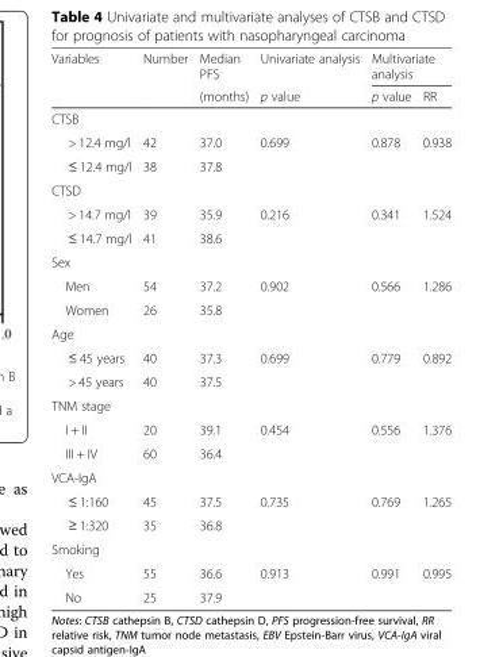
<table><thead><tr><td rowspan="2">Variables</td><td rowspan="2">Number</td><td rowspan="2">Median PFS (months)</td><td rowspan="2">Univariate analysis p value</td><td colspan="2">Multivariate analysis</td></tr><tr><td>p value</td><td>RR</td></tr></thead><tbody><tr><td colspan="6">CTSB</td></tr><tr><td>&gt; 12.4 mg/l</td><td>42</td><td>37.0</td><td>0.699</td><td>0.878</td><td>0.938</td></tr><tr><td>≤ 12.4 mg/l</td><td>38</td><td>37.8</td><td></td><td></td><td></td></tr><tr><td colspan="6">CTSD</td></tr><tr><td>&gt; 14.7 mg/l</td><td>39</td><td>35.9</td><td>0.216</td><td>0.341</td><td>1.524</td></tr><tr><td>≤ 14.7 mg/l</td><td>41</td><td>38.6</td><td></td><td></td><td></td></tr><tr><td colspan="6">Sex</td></tr><tr><td>Men</td><td>54</td><td>37.2</td><td>0.902</td><td>0.566</td><td>1.286</td></tr><tr><td>Women</td><td>26</td><td>35.8</td><td></td><td></td><td></td></tr><tr><td colspan="6">Age</td></tr><tr><td>≤ 45 years</td><td>40</td><td>37.3</td><td>0.699</td><td>0.779</td><td>0.892</td></tr><tr><td>&gt; 45 years</td><td>40</td><td>37.5</td><td></td><td></td><td></td></tr><tr><td colspan="6">TNM stage</td></tr><tr><td>I + II</td><td>20</td><td>39.1</td><td>0.454</td><td>0.556</td><td>1.376</td></tr><tr><td>III + IV</td><td>60</td><td>36.4</td><td></td><td></td><td></td></tr><tr><td colspan="6">VCA-IgA</td></tr><tr><td>≤ 1:160</td><td>45</td><td>37.5</td><td>0.735</td><td>0.769</td><td>1.265</td></tr><tr><td>≥ 1:320</td><td>35</td><td>36.8</td><td></td><td></td><td></td></tr><tr><td colspan="6">Smoking</td></tr><tr><td>Yes</td><td>55</td><td>36.6</td><td>0.913</td><td>0.991</td><td>0.995</td></tr><tr><td>No</td><td>25</td><td>37.9</td><td></td><td></td><td></td></tr></tbody></table>